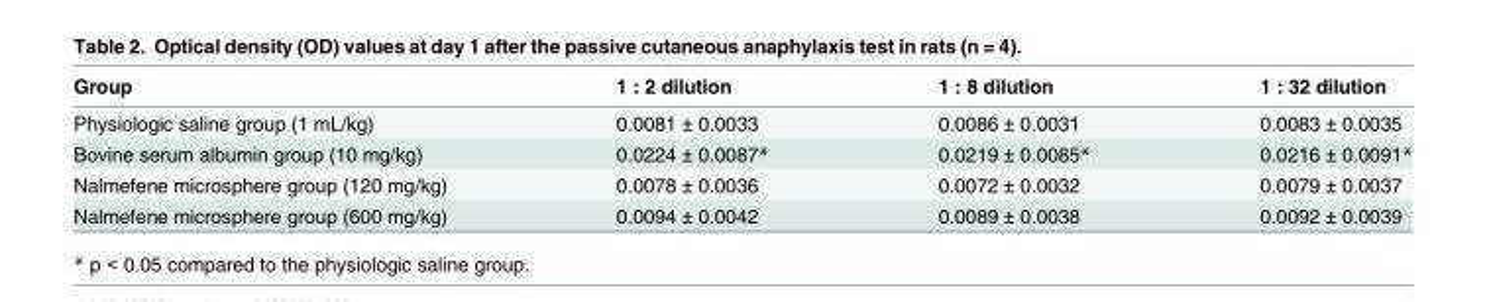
<table><thead><tr><td>Group</td><td>1 : 2 dilution</td><td>1 : 8 dilution</td><td>1 : 32 dilution</td></tr></thead><tbody><tr><td>Physiologic saline group (1 mL/kg)</td><td>0.0081 ± 0.0033</td><td>0.0086 ± 0.0031</td><td>0.0083 ± 0.0035</td></tr><tr><td>Bovine serum albumin group (10 mg/kg)</td><td>0.0224 ± 0.0087*</td><td>0.0219 ± 0.0085*</td><td>0.0216 ± 0.0091*</td></tr><tr><td>Nalmefene microsphere group (120 mg/kg)</td><td>0.0078 ± 0.0036</td><td>0.0072 ± 0.0032</td><td>0.0079 ± 0.0037</td></tr><tr><td>Nalmefene microsphere group (600 mg/kg)</td><td>0.0094 ± 0.0042</td><td>0.0089 ± 0.0038</td><td>0.0092 ± 0.0039</td></tr></tbody></table>